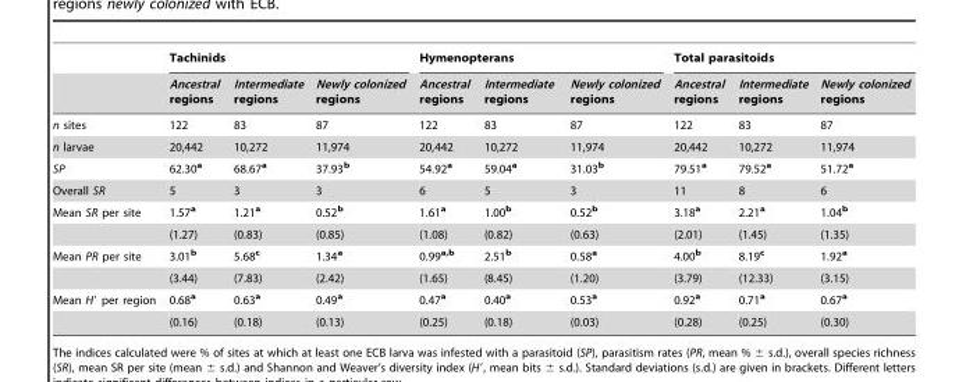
<table><thead><tr><td rowspan="2"></td><td colspan="3">Tachinids</td><td colspan="3">Hymenopterans</td><td colspan="3">Total parasitoids</td></tr><tr><td>Ancestral regions</td><td>Intermediate regions</td><td>Newly colonized regions</td><td>Ancestral regions</td><td>Intermediate regions</td><td>Newly colonized regions</td><td>Ancestral regions</td><td>Intermediate regions</td><td>Newly colonized regions</td></tr></thead><tbody><tr><td>n sites</td><td>122</td><td>83</td><td>87</td><td>122</td><td>83</td><td>87</td><td>122</td><td>83</td><td>87</td></tr><tr><td>n larvae</td><td>20,442</td><td>10,272</td><td>11,974</td><td>20,442</td><td>10,272</td><td>11,974</td><td>20,442</td><td>10,272</td><td>11,974</td></tr><tr><td>SP</td><td>62.30<sup>a</sup></td><td>68.67<sup>a</sup></td><td>37.93<sup>b</sup></td><td>54.92<sup>a</sup></td><td>59.04<sup>a</sup></td><td>31.03<sup>b</sup></td><td>79.51<sup>a</sup></td><td>79.52<sup>a</sup></td><td>51.72<sup>a</sup></td></tr><tr><td>Overall SR</td><td>5</td><td>3</td><td>3</td><td>6</td><td>5</td><td>3</td><td>11</td><td>8</td><td>6</td></tr><tr><td rowspan="2">Mean SR per site</td><td>1.57<sup>a</sup></td><td>1.21<sup>a</sup></td><td>0.52<sup>b</sup></td><td>1.61<sup>a</sup></td><td>1.00<sup>b</sup></td><td>0.52<sup>b</sup></td><td>3.18<sup>a</sup></td><td>2.21<sup>a</sup></td><td>1.04<sup>b</sup></td></tr><tr><td>(1.27)</td><td>(0.83)</td><td>(0.85)</td><td>(1.08)</td><td>(0.82)</td><td>(0.63)</td><td>(2.01)</td><td>(1.45)</td><td>(1.35)</td></tr><tr><td rowspan="2">Mean PR per site</td><td>3.01<sup>b</sup></td><td>5.68<sup>c</sup></td><td>1.34<sup>a</sup></td><td>0.99<sup>a,b</sup></td><td>2.51<sup>b</sup></td><td>0.58<sup>a</sup></td><td>4.00<sup>b</sup></td><td>8.19<sup>c</sup></td><td>1.92<sup>a</sup></td></tr><tr><td>(3.44)</td><td>(7.83)</td><td>(2.42)</td><td>(1.65)</td><td>(8.45)</td><td>(1.20)</td><td>(3.79)</td><td>(12.33)</td><td>(3.15)</td></tr><tr><td rowspan="2">Mean H′ per region</td><td>0.68<sup>a</sup></td><td>0.63<sup>a</sup></td><td>0.49<sup>a</sup></td><td>0.47<sup>a</sup></td><td>0.40<sup>a</sup></td><td>0.53<sup>a</sup></td><td>0.92<sup>a</sup></td><td>0.71<sup>a</sup></td><td>0.67<sup>a</sup></td></tr><tr><td>(0.16)</td><td>(0.18)</td><td>(0.13)</td><td>(0.25)</td><td>(0.18)</td><td>(0.03)</td><td>(0.28)</td><td>(0.25)</td><td>(0.30)</td></tr></tbody></table>